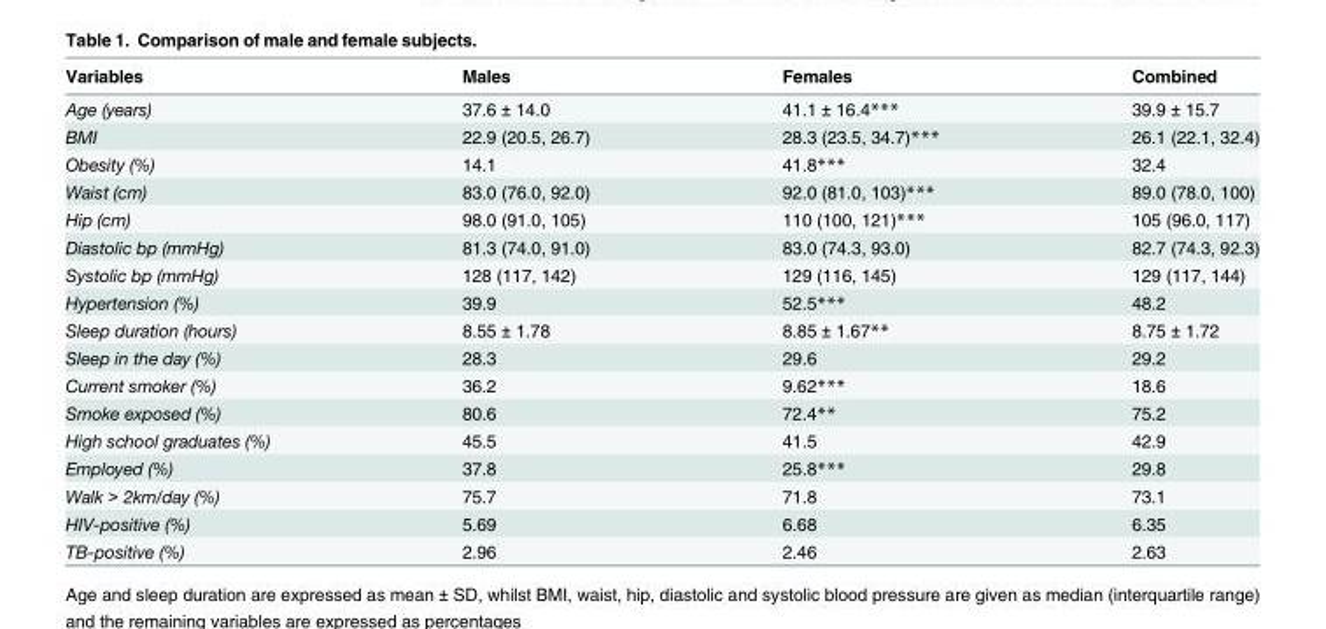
<table><thead><tr><td>Variables</td><td>Males</td><td>Females</td><td>Combined</td></tr></thead><tbody><tr><td>Age (years)</td><td>37.6 ± 14.0</td><td>41.1 ± 16.4***</td><td>39.9 ± 15.7</td></tr><tr><td>BMI</td><td>22.9 (20.5, 26.7)</td><td>28.3 (23.5, 34.7)***</td><td>26.1 (22.1, 32.4)</td></tr><tr><td>Obesity (%)</td><td>14.1</td><td>41.8***</td><td>32.4</td></tr><tr><td>Waist (cm)</td><td>83.0 (76.0, 92.0)</td><td>92.0 (81.0, 103)***</td><td>89.0 (78.0, 100)</td></tr><tr><td>Hip (cm)</td><td>98.0 (91.0, 105)</td><td>110 (100, 121)***</td><td>105 (96.0, 117)</td></tr><tr><td>Diastolic bp (mmHg)</td><td>81.3 (74.0, 91.0)</td><td>83.0 (74.3, 93.0)</td><td>82.7 (74.3, 92.3)</td></tr><tr><td>Systolic bp (mmHg)</td><td>128 (117, 142)</td><td>129 (116, 145)</td><td>129 (117, 144)</td></tr><tr><td>Hypertension (%)</td><td>39.9</td><td>52.5***</td><td>48.2</td></tr><tr><td>Sleep duration (hours)</td><td>8.55 ± 1.78</td><td>8.85 ± 1.67**</td><td>8.75 ± 1.72</td></tr><tr><td>Sleep in the day (%)</td><td>28.3</td><td>29.6</td><td>29.2</td></tr><tr><td>Current smoker (%)</td><td>36.2</td><td>9.62***</td><td>18.6</td></tr><tr><td>Smoke exposed (%)</td><td>80.6</td><td>72.4**</td><td>75.2</td></tr><tr><td>High school graduates (%)</td><td>45.5</td><td>41.5</td><td>42.9</td></tr><tr><td>Employed (%)</td><td>37.8</td><td>25.8***</td><td>29.8</td></tr><tr><td>Walk &gt; 2km/day (%)</td><td>75.7</td><td>71.8</td><td>73.1</td></tr><tr><td>HIV-positive (%)</td><td>5.69</td><td>6.68</td><td>6.35</td></tr><tr><td>TB-positive (%)</td><td>2.96</td><td>2.46</td><td>2.63</td></tr></tbody></table>